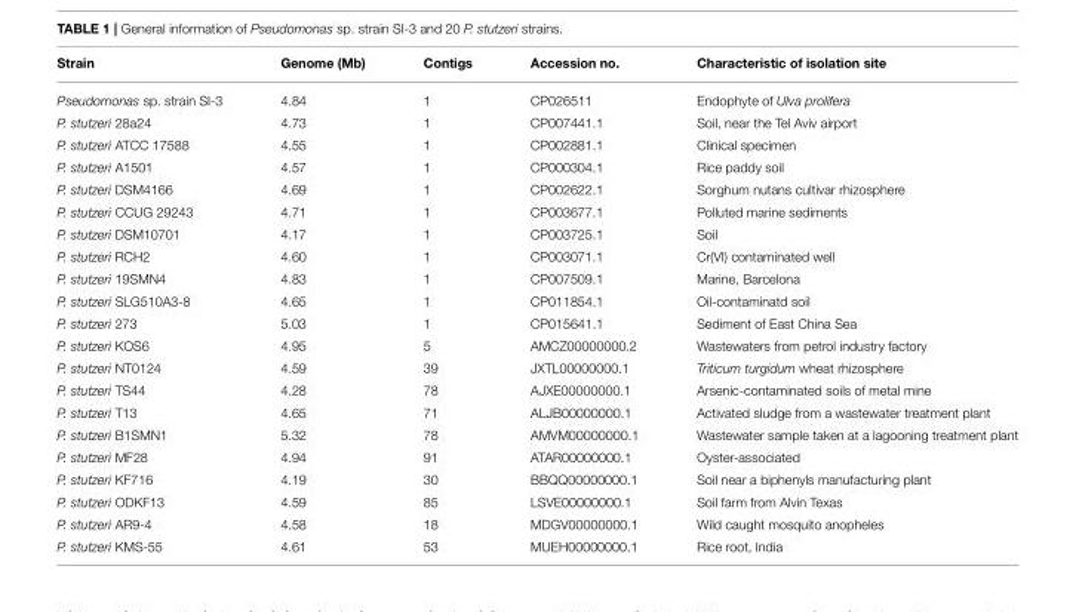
<table><thead><tr><td>Strain</td><td>Genome (Mb)</td><td>Contigs</td><td>Accession no.</td><td>Characteristic of isolation site</td></tr></thead><tbody><tr><td>Pseudomonas sp. strain SI-3</td><td>4.84</td><td>1</td><td>CP026511</td><td>Endophyte of Ulva prolifera</td></tr><tr><td>P. stutzeri 28a24</td><td>4.73</td><td>1</td><td>CP007441.1</td><td>Soil, near the Tel Aviv airport</td></tr><tr><td>P. stutzeri ATCC 17588</td><td>4.55</td><td>1</td><td>CP002881.1</td><td>Clinical specimen</td></tr><tr><td>P. stutzeri A1501</td><td>4.57</td><td>1</td><td>CP000304.1</td><td>Rice paddy soil</td></tr><tr><td>P. stutzeri DSM4166</td><td>4.69</td><td>1</td><td>CP002622.1</td><td>Sorghum nutans cultivar rhizosphere</td></tr><tr><td>P. stutzeri CCUG 29243</td><td>4.71</td><td>1</td><td>CP003677.1</td><td>Polluted marine sediments</td></tr><tr><td>P. stutzeri DSM10701</td><td>4.17</td><td>1</td><td>CP003725.1</td><td>Soil</td></tr><tr><td>P. stutzeri RCH2</td><td>4.60</td><td>1</td><td>CP003071.1</td><td>Cr(VI) contaminated well</td></tr><tr><td>P. stutzeri 19SMN4</td><td>4.83</td><td>1</td><td>CP007509.1</td><td>Marine, Barcelona</td></tr><tr><td>P. stutzeri SLG510A3-8</td><td>4.65</td><td>1</td><td>CP011854.1</td><td>Oil-contaminatd soil</td></tr><tr><td>P. stutzeri 273</td><td>5.03</td><td>1</td><td>CP015641.1</td><td>Sediment of East China Sea</td></tr><tr><td>P. stutzeri KOS6</td><td>4.95</td><td>5</td><td>AMCZ00000000.2</td><td>Wastewaters from petrol industry factory</td></tr><tr><td>P. stutzeri NT0124</td><td>4.59</td><td>39</td><td>JXTL00000000.1</td><td>Triticum turgidum wheat rhizosphere</td></tr><tr><td>P. stutzeri TS44</td><td>4.28</td><td>78</td><td>AJXE00000000.1</td><td>Arsenic-contaminated soils of metal mine</td></tr><tr><td>P. stutzeri T13</td><td>4.65</td><td>71</td><td>ALJB00000000.1</td><td>Activated sludge from a wastewater treatment plant</td></tr><tr><td>P. stutzeri B1SMN1</td><td>5.32</td><td>78</td><td>AMVM00000000.1</td><td>Wastewater sample taken at a lagooning treatment plant</td></tr><tr><td>P. stutzeri MF28</td><td>4.94</td><td>91</td><td>ATAR00000000.1</td><td>Oyster-associated</td></tr><tr><td>P. stutzeri KF716</td><td>4.19</td><td>30</td><td>BBQQ00000000.1</td><td>Soil near a biphenyls manufacturing plant</td></tr><tr><td>P. stutzeri ODKF13</td><td>4.59</td><td>85</td><td>LSVE00000000.1</td><td>Soil farm from Alvin Texas</td></tr><tr><td>P. stutzeri AR9-4</td><td>4.58</td><td>18</td><td>MDGV00000000.1</td><td>Wild caught mosquito anopheles</td></tr><tr><td>P. stutzeri KMS-55</td><td>4.61</td><td>53</td><td>MUEH00000000.1</td><td>Rice root, India</td></tr></tbody></table>